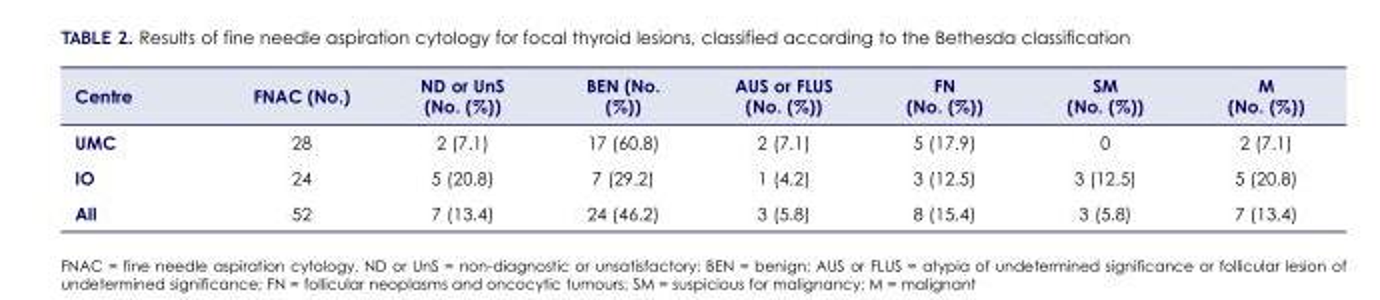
<table><thead><tr><td>Centre</td><td>FNAC (No.)</td><td>ND or UnS (No. (%))</td><td>BEN (No. (%))</td><td>AUS or FLUS (No. (%))</td><td>FN (No. (%))</td><td>SM (No. (%))</td><td>M (No. (%))</td></tr></thead><tbody><tr><td>UMC</td><td>28</td><td>2 (7.1)</td><td>17 (60.8)</td><td>2 (7.1)</td><td>5 (17.9)</td><td>0</td><td>2 (7.1)</td></tr><tr><td>IO</td><td>24</td><td>5 (20.8)</td><td>7 (29.2)</td><td>1 (4.2)</td><td>3 (12.5)</td><td>3 (12.5)</td><td>5 (20.8)</td></tr><tr><td>All</td><td>52</td><td>7 (13.4)</td><td>24 (46.2)</td><td>3 (5.8)</td><td>8 (15.4)</td><td>3 (5.8)</td><td>7 (13.4)</td></tr></tbody></table>